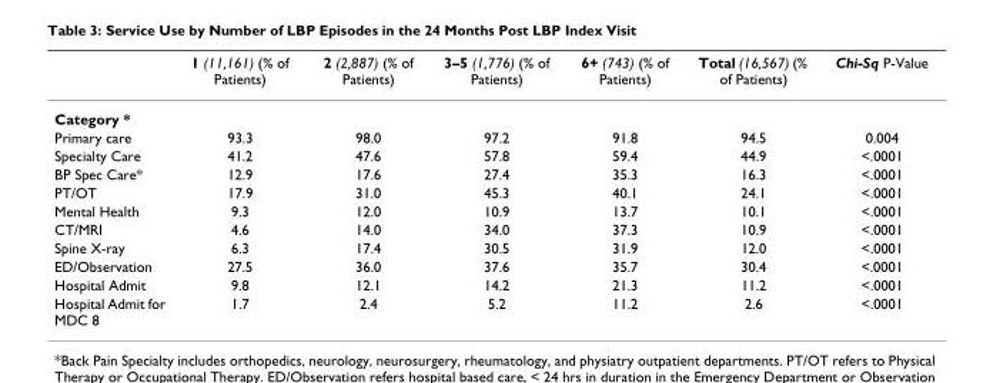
<table><thead><tr><td></td><td>1 (11,161) (% of Patients)</td><td>2 (2,887) (% of Patients)</td><td>3–5 (1,776) (% of Patients)</td><td>6+ (743) (% of Patients)</td><td>Total (16,567) (% of Patients)</td><td>Chi-Sq P-Value</td></tr></thead><tbody><tr><td colspan="7">Category *</td></tr><tr><td>Primary care</td><td>93.3</td><td>98.0</td><td>97.2</td><td>91.8</td><td>94.5</td><td>0.004</td></tr><tr><td>Specialty Care</td><td>41.2</td><td>47.6</td><td>57.8</td><td>59.4</td><td>44.9</td><td>&lt;.0001</td></tr><tr><td>BP Spec Care*</td><td>12.9</td><td>17.6</td><td>27.4</td><td>35.3</td><td>16.3</td><td>&lt;.0001</td></tr><tr><td>PT/OT</td><td>17.9</td><td>31.0</td><td>45.3</td><td>40.1</td><td>24.1</td><td>&lt;.0001</td></tr><tr><td>Mental Health</td><td>9.3</td><td>12.0</td><td>10.9</td><td>13.7</td><td>10.1</td><td>&lt;.0001</td></tr><tr><td>CT/MRI</td><td>4.6</td><td>14.0</td><td>34.0</td><td>37.3</td><td>10.9</td><td>&lt;.0001</td></tr><tr><td>Spine X-ray</td><td>6.3</td><td>17.4</td><td>30.5</td><td>31.9</td><td>12.0</td><td>&lt;.0001</td></tr><tr><td>ED/Observation</td><td>27.5</td><td>36.0</td><td>37.6</td><td>35.7</td><td>30.4</td><td>&lt;.0001</td></tr><tr><td>Hospital Admit</td><td>9.8</td><td>12.1</td><td>14.2</td><td>21.3</td><td>11.2</td><td>&lt;.0001</td></tr><tr><td>Hospital Admit for MDC 8</td><td>1.7</td><td>2.4</td><td>5.2</td><td>11.2</td><td>2.6</td><td>&lt;.0001</td></tr></tbody></table>